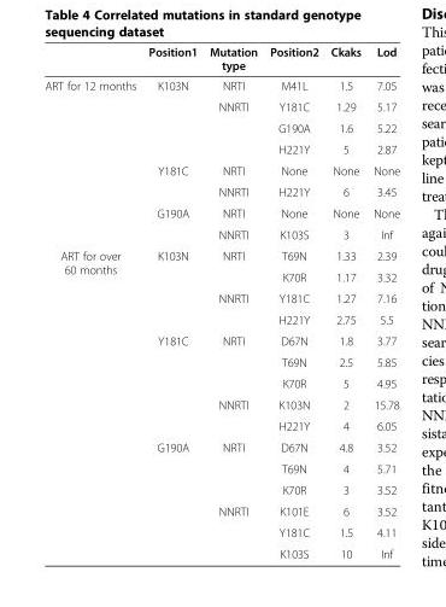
<table><thead><tr><td></td><td>Position1</td><td>Mutation type</td><td>Position2</td><td>Ckaks</td><td>Lod</td></tr></thead><tbody><tr><td rowspan="8">ART for 12 months</td><td>K103N</td><td>NRTI</td><td>M41L</td><td>1.5</td><td>7.05</td></tr><tr><td></td><td rowspan="3">NNRTI</td><td>Y181C</td><td>1.29</td><td>5.17</td></tr><tr><td></td><td>G190A</td><td>1.6</td><td>5.22</td></tr><tr><td></td><td>H221Y</td><td>5</td><td>2.87</td></tr><tr><td>Y181C</td><td>NRTI</td><td>None</td><td>None</td><td>None</td></tr><tr><td></td><td>NNRTI</td><td>H221Y</td><td>6</td><td>3.45</td></tr><tr><td>G190A</td><td>NRTI</td><td>None</td><td>None</td><td>None</td></tr><tr><td></td><td>NNRTI</td><td>K103S</td><td>3</td><td>Inf</td></tr><tr><td rowspan="15">ART for over 60 months</td><td>K103N</td><td rowspan="2">NRTI</td><td>T69N</td><td>1.33</td><td>2.39</td></tr><tr><td></td><td>K70R</td><td>1.17</td><td>3.32</td></tr><tr><td></td><td rowspan="2">NNRTI</td><td>Y181C</td><td>1.27</td><td>7.16</td></tr><tr><td></td><td>H221Y</td><td>2.75</td><td>5.5</td></tr><tr><td>Y181C</td><td rowspan="3">NRTI</td><td>D67N</td><td>1.8</td><td>3.77</td></tr><tr><td></td><td>T69N</td><td>2.5</td><td>5.85</td></tr><tr><td></td><td>K70R</td><td>5</td><td>4.95</td></tr><tr><td></td><td rowspan="2">NNRTI</td><td>K103N</td><td>2</td><td>15.78</td></tr><tr><td></td><td>H221Y</td><td>4</td><td>6.05</td></tr><tr><td>G190A</td><td rowspan="3">NRTI</td><td>D67N</td><td>4.8</td><td>3.52</td></tr><tr><td></td><td>T69N</td><td>4</td><td>5.71</td></tr><tr><td></td><td>K70R</td><td>3</td><td>3.52</td></tr><tr><td></td><td rowspan="3">NNRTI</td><td>K101E</td><td>6</td><td>3.52</td></tr><tr><td></td><td>Y181C</td><td>1.5</td><td>4.11</td></tr><tr><td></td><td>K103S</td><td>10</td><td>Inf</td></tr></tbody></table>